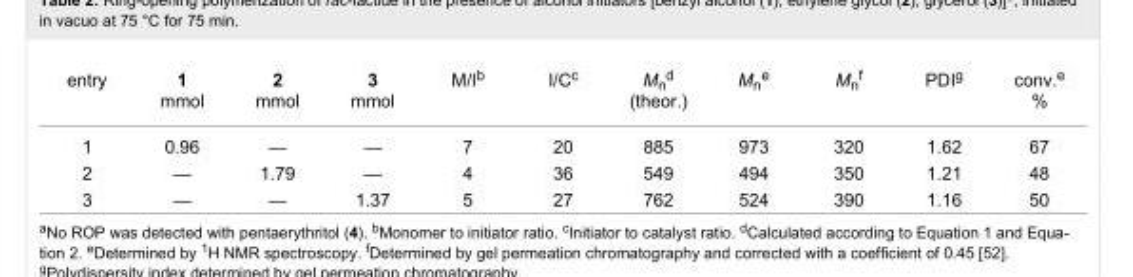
<table><tbody><tr><td>entry</td><td>1 mmol</td><td>2 mmol</td><td>3 mmol</td><td>M/I<sup>b</sup></td><td>I/C<sup>c</sup></td><td>M<sub>n</sub><sup>d</sup> (theor.)</td><td>M<sub>n</sub><sup>e</sup></td><td>M<sub>n</sub><sup>f</sup></td><td>PDI<sup>g</sup></td><td>conv.<sup>e</sup> %</td></tr><tr><td>1</td><td>0.96</td><td>—</td><td>—</td><td>7</td><td>20</td><td>885</td><td>973</td><td>320</td><td>1.62</td><td>67</td></tr><tr><td>2</td><td>—</td><td>1.79</td><td>—</td><td>4</td><td>36</td><td>549</td><td>494</td><td>350</td><td>1.21</td><td>48</td></tr><tr><td>3</td><td>—</td><td>—</td><td>1.37</td><td>5</td><td>27</td><td>762</td><td>524</td><td>390</td><td>1.16</td><td>50</td></tr></tbody></table>